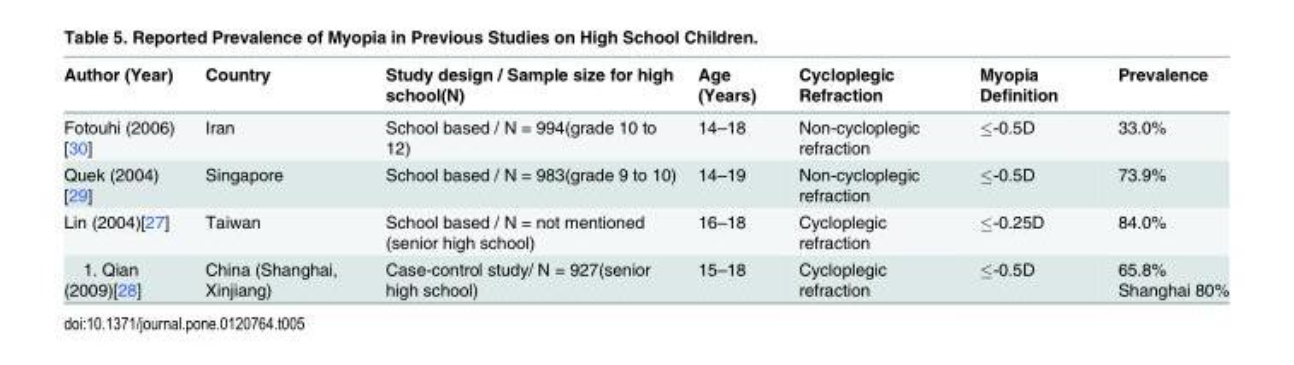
<table><thead><tr><td>Author (Year)</td><td>Country</td><td>Study design / Sample size for high school(N)</td><td>Age (Years)</td><td>Cycloplegic Refraction</td><td>Myopia Definition</td><td>Prevalence</td></tr></thead><tbody><tr><td>Fotouhi (2006) [30]</td><td>Iran</td><td>School based / N = 994(grade 10 to 12)</td><td>14–18</td><td>Non-cycloplegic refraction</td><td>≤-0.5D</td><td>33.0%</td></tr><tr><td>Quek (2004) [29]</td><td>Singapore</td><td>School based / N = 983(grade 9 to 10)</td><td>14–19</td><td>Non-cycloplegic refraction</td><td>≤-0.5D</td><td>73.9%</td></tr><tr><td>Lin (2004)[27]</td><td>Taiwan</td><td>School based / N = not mentioned (senior high school)</td><td>16–18</td><td>Cycloplegic refraction</td><td>≤-0.25D</td><td>84.0%</td></tr><tr><td>1. Qian (2009)[28]</td><td>China (Shanghai, Xinjiang)</td><td>Case-control study/ N = 927(senior high school)</td><td>15–18</td><td>Cycloplegic refraction</td><td>≤-0.5D</td><td>65.8% Shanghai 80%</td></tr></tbody></table>